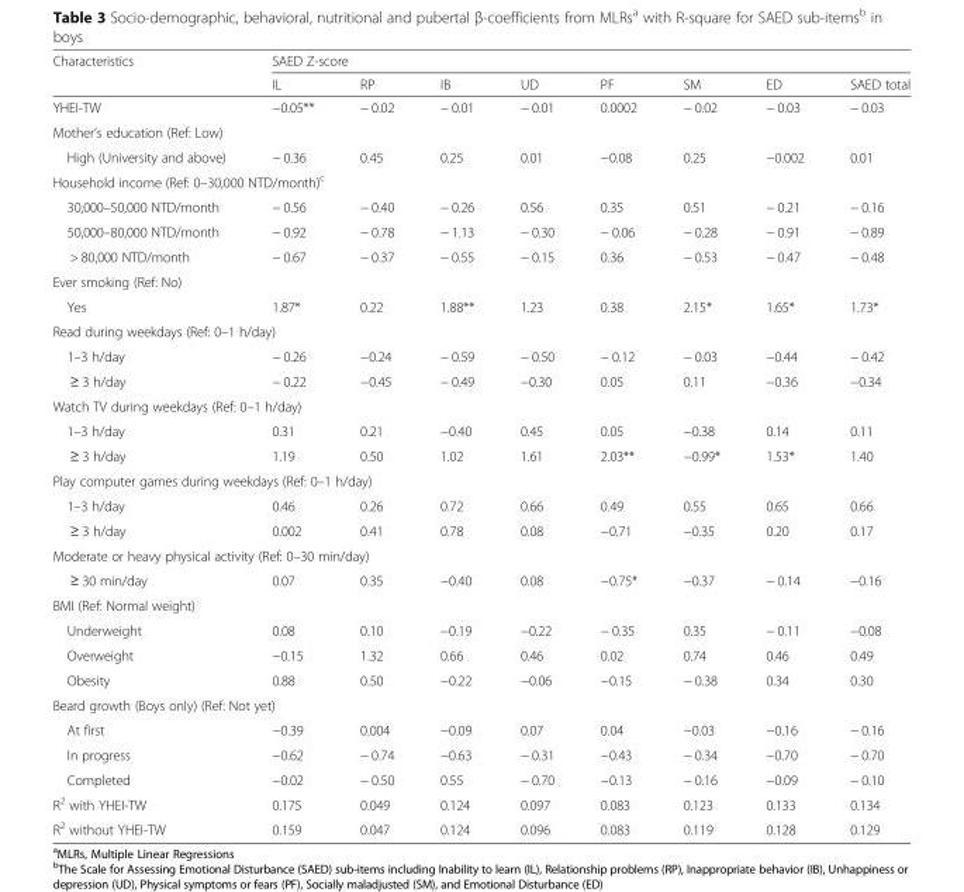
<table><thead><tr><td rowspan="2">Characteristics</td><td colspan="8">SAED Z-score</td></tr><tr><td>IL</td><td>RP</td><td>IB</td><td>UD</td><td>PF</td><td>SM</td><td>ED</td><td>SAED total</td></tr></thead><tbody><tr><td>YHEI-TW</td><td>−0.05**</td><td>− 0.02</td><td>− 0.01</td><td>− 0.01</td><td>0.0002</td><td>− 0.02</td><td>− 0.03</td><td>− 0.03</td></tr><tr><td colspan="9">Mother’s education (Ref: Low)</td></tr><tr><td>High (University and above)</td><td>− 0.36</td><td>0.45</td><td>0.25</td><td>0.01</td><td>−0.08</td><td>0.25</td><td>−0.002</td><td>0.01</td></tr><tr><td colspan="9">Household income (Ref: 0–30,000 NTD/month)<sup>c</sup></td></tr><tr><td>30,000–50,000 NTD/month</td><td>− 0.56</td><td>− 0.40</td><td>− 0.26</td><td>0.56</td><td>0.35</td><td>0.51</td><td>− 0.21</td><td>− 0.16</td></tr><tr><td>50,000–80,000 NTD/month</td><td>− 0.92</td><td>− 0.78</td><td>− 1.13</td><td>− 0.30</td><td>− 0.06</td><td>− 0.28</td><td>− 0.91</td><td>− 0.89</td></tr><tr><td>&gt; 80,000 NTD/month</td><td>− 0.67</td><td>− 0.37</td><td>− 0.55</td><td>− 0.15</td><td>0.36</td><td>− 0.53</td><td>− 0.47</td><td>− 0.48</td></tr><tr><td colspan="9">Ever smoking (Ref: No)</td></tr><tr><td>Yes</td><td>1.87*</td><td>0.22</td><td>1.88**</td><td>1.23</td><td>0.38</td><td>2.15*</td><td>1.65*</td><td>1.73*</td></tr><tr><td colspan="9">Read during weekdays (Ref: 0–1 h/day)</td></tr><tr><td>1–3 h/day</td><td>− 0.26</td><td>−0.24</td><td>− 0.59</td><td>− 0.50</td><td>− 0.12</td><td>− 0.03</td><td>−0.44</td><td>− 0.42</td></tr><tr><td>≥ 3 h/day</td><td>− 0.22</td><td>−0.45</td><td>− 0.49</td><td>−0.30</td><td>0.05</td><td>0.11</td><td>−0.36</td><td>−0.34</td></tr><tr><td colspan="9">Watch TV during weekdays (Ref: 0–1 h/day)</td></tr><tr><td>1–3 h/day</td><td>0.31</td><td>0.21</td><td>−0.40</td><td>0.45</td><td>0.05</td><td>−0.38</td><td>0.14</td><td>0.11</td></tr><tr><td>≥ 3 h/day</td><td>1.19</td><td>0.50</td><td>1.02</td><td>1.61</td><td>2.03**</td><td>−0.99*</td><td>1.53*</td><td>1.40</td></tr><tr><td colspan="9">Play computer games during weekdays (Ref: 0–1 h/day)</td></tr><tr><td>1–3 h/day</td><td>0.46</td><td>0.26</td><td>0.72</td><td>0.66</td><td>0.49</td><td>0.55</td><td>0.65</td><td>0.66</td></tr><tr><td>≥ 3 h/day</td><td>0.002</td><td>0.41</td><td>0.78</td><td>0.08</td><td>−0.71</td><td>−0.35</td><td>0.20</td><td>0.17</td></tr><tr><td colspan="9">Moderate or heavy physical activity (Ref: 0–30 min/day)</td></tr><tr><td>≥ 30 min/day</td><td>0.07</td><td>0.35</td><td>−0.40</td><td>0.08</td><td>−0.75*</td><td>−0.37</td><td>− 0.14</td><td>−0.16</td></tr><tr><td colspan="9">BMI (Ref: Normal weight)</td></tr><tr><td>Underweight</td><td>0.08</td><td>0.10</td><td>−0.19</td><td>−0.22</td><td>− 0.35</td><td>0.35</td><td>− 0.11</td><td>−0.08</td></tr><tr><td>Overweight</td><td>−0.15</td><td>1.32</td><td>0.66</td><td>0.46</td><td>0.02</td><td>0.74</td><td>0.46</td><td>0.49</td></tr><tr><td>Obesity</td><td>0.88</td><td>0.50</td><td>−0.22</td><td>−0.06</td><td>−0.15</td><td>− 0.38</td><td>0.34</td><td>0.30</td></tr><tr><td colspan="9">Beard growth (Boys only) (Ref: Not yet)</td></tr><tr><td>At first</td><td>−0.39</td><td>0.004</td><td>−0.09</td><td>0.07</td><td>0.04</td><td>−0.03</td><td>−0.16</td><td>− 0.16</td></tr><tr><td>In progress</td><td>−0.62</td><td>− 0.74</td><td>−0.63</td><td>− 0.31</td><td>−0.43</td><td>− 0.34</td><td>−0.70</td><td>− 0.70</td></tr><tr><td>Completed</td><td>−0.02</td><td>− 0.50</td><td>0.55</td><td>− 0.70</td><td>−0.13</td><td>− 0.16</td><td>−0.09</td><td>− 0.10</td></tr><tr><td>R<sup>2</sup> with YHEI-TW</td><td>0.175</td><td>0.049</td><td>0.124</td><td>0.097</td><td>0.083</td><td>0.123</td><td>0.133</td><td>0.134</td></tr><tr><td>R<sup>2</sup> without YHEI-TW</td><td>0.159</td><td>0.047</td><td>0.124</td><td>0.096</td><td>0.083</td><td>0.119</td><td>0.128</td><td>0.129</td></tr></tbody></table>